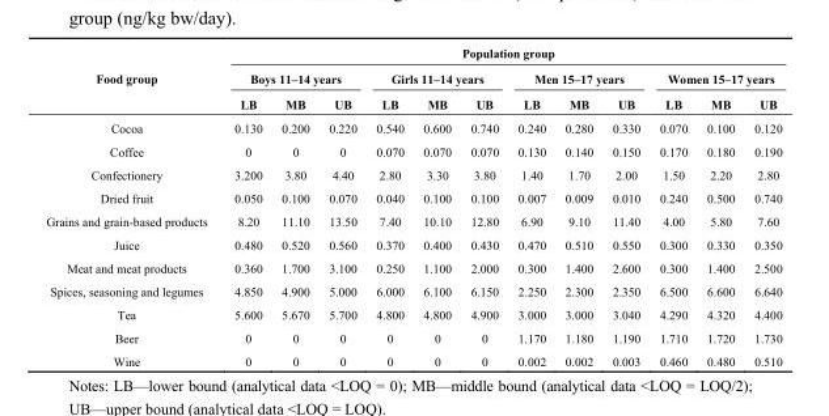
<table><thead><tr><td rowspan="3">Food group</td><td colspan="12">Population group</td></tr><tr><td colspan="3">Boys 11–14 years</td><td colspan="3">Girls 11–14 years</td><td colspan="3">Men 15–17 years</td><td colspan="3">Women 15–17 years</td></tr><tr><td>LB</td><td>MB</td><td>UB</td><td>LB</td><td>MB</td><td>UB</td><td>LB</td><td>MB</td><td>UB</td><td>LB</td><td>MB</td><td>UB</td></tr></thead><tbody><tr><td>Cocoa</td><td>0.130</td><td>0.200</td><td>0.220</td><td>0.540</td><td>0.600</td><td>0.740</td><td>0.240</td><td>0.280</td><td>0.330</td><td>0.070</td><td>0.100</td><td>0.120</td></tr><tr><td>Coffee</td><td>0</td><td>0</td><td>0</td><td>0.070</td><td>0.070</td><td>0.070</td><td>0.130</td><td>0.140</td><td>0.150</td><td>0.170</td><td>0.180</td><td>0.190</td></tr><tr><td>Confectionery</td><td>3.200</td><td>3.80</td><td>4.40</td><td>2.80</td><td>3.30</td><td>3.80</td><td>1.40</td><td>1.70</td><td>2.00</td><td>1.50</td><td>2.20</td><td>2.80</td></tr><tr><td>Dried fruit</td><td>0.050</td><td>0.100</td><td>0.070</td><td>0.040</td><td>0.100</td><td>0.100</td><td>0.007</td><td>0.009</td><td>0.010</td><td>0.240</td><td>0.500</td><td>0.740</td></tr><tr><td>Grains and grain-based products</td><td>8.20</td><td>11.10</td><td>13.50</td><td>7.40</td><td>10.10</td><td>12.80</td><td>6.90</td><td>9.10</td><td>11.40</td><td>4.00</td><td>5.80</td><td>7.60</td></tr><tr><td>Juice</td><td>0.480</td><td>0.520</td><td>0.560</td><td>0.370</td><td>0.400</td><td>0.430</td><td>0.470</td><td>0.510</td><td>0.550</td><td>0.300</td><td>0.330</td><td>0.350</td></tr><tr><td>Meat and meat products</td><td>0.360</td><td>1.700</td><td>3.100</td><td>0.250</td><td>1.100</td><td>2.000</td><td>0.300</td><td>1.400</td><td>2.600</td><td>0.300</td><td>1.400</td><td>2.500</td></tr><tr><td>Spices, seasoning and legumes</td><td>4.850</td><td>4.900</td><td>5.000</td><td>6.000</td><td>6.100</td><td>6.150</td><td>2.250</td><td>2.300</td><td>2.350</td><td>6.500</td><td>6.600</td><td>6.640</td></tr><tr><td>Tea</td><td>5.600</td><td>5.670</td><td>5.700</td><td>4.800</td><td>4.800</td><td>4.900</td><td>3.000</td><td>3.000</td><td>3.040</td><td>4.290</td><td>4.320</td><td>4.400</td></tr><tr><td>Beer</td><td>0</td><td>0</td><td>0</td><td>0</td><td>0</td><td>0</td><td>1.170</td><td>1.180</td><td>1.190</td><td>1.710</td><td>1.720</td><td>1.730</td></tr><tr><td>Wine</td><td>0</td><td>0</td><td>0</td><td>0</td><td>0</td><td>0</td><td>0.002</td><td>0.002</td><td>0.003</td><td>0.460</td><td>0.480</td><td>0.510</td></tr></tbody></table>